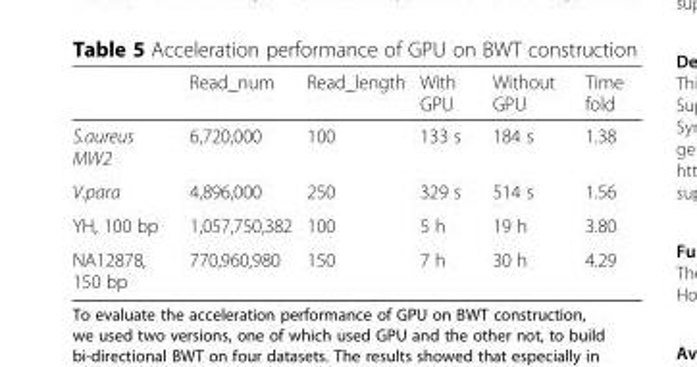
<table><thead><tr><td></td><td>Read_num</td><td>Read_length</td><td>With GPU</td><td>Without GPU</td><td>Time fold</td></tr></thead><tbody><tr><td>S.aureus MW2</td><td>6,720,000</td><td>100</td><td>133 s</td><td>184 s</td><td>1.38</td></tr><tr><td>V.para</td><td>4,896,000</td><td>250</td><td>329 s</td><td>514 s</td><td>1.56</td></tr><tr><td>YH, 100 bp</td><td>1,057,750,382</td><td>100</td><td>5 h</td><td>19 h</td><td>3.80</td></tr><tr><td>NA12878, 150 bp</td><td>770,960,980</td><td>150</td><td>7 h</td><td>30 h</td><td>4.29</td></tr></tbody></table>